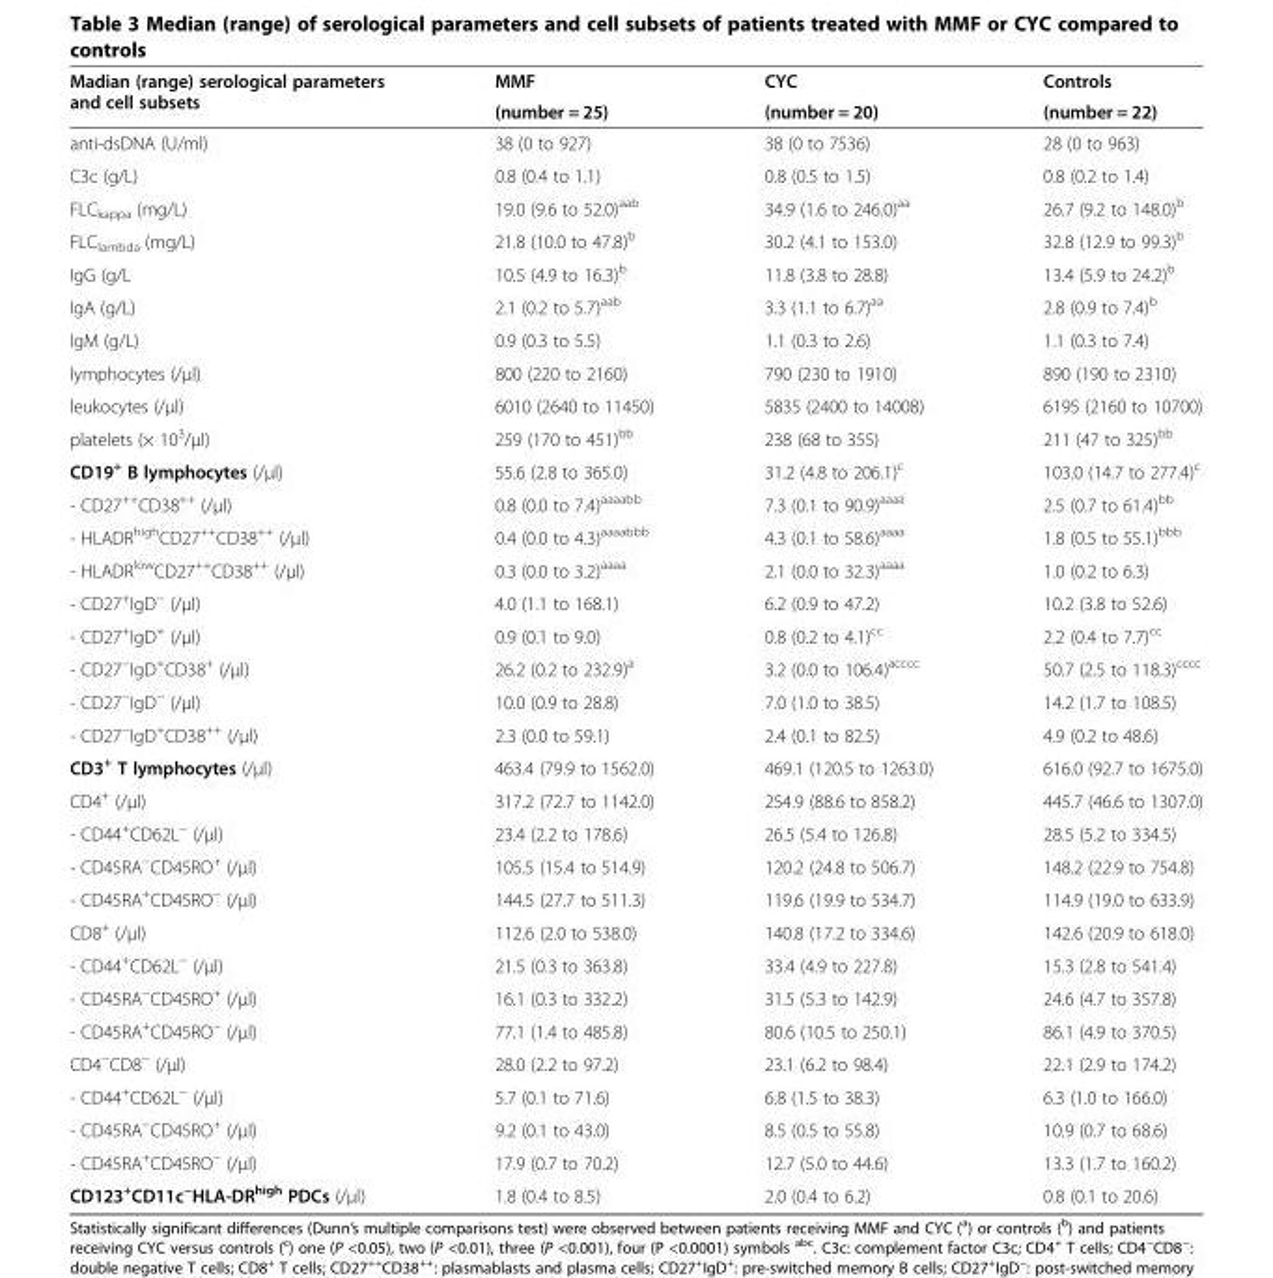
<table><thead><tr><td rowspan="2">Madian (range) serological parameters and cell subsets</td><td rowspan="2">MMF (number = 25)</td><td rowspan="2">CYC (number = 20)</td><td rowspan="2">Controls (number = 22)</td></tr><tr></tr></thead><tbody><tr><td>anti-dsDNA (U/ml)</td><td>38 (0 to 927)</td><td>38 (0 to 7536)</td><td>28 (0 to 963)</td></tr><tr><td>C3c (g/L)</td><td>0.8 (0.4 to 1.1)</td><td>0.8 (0.5 to 1.5)</td><td>0.8 (0.2 to 1.4)</td></tr><tr><td>FLC<sub>kappa</sub> (mg/L)</td><td>19.0 (9.6 to 52.0)<sup>aab</sup></td><td>34.9 (1.6 to 246.0)<sup>aa</sup></td><td>26.7 (9.2 to 148.0)<sup>b</sup></td></tr><tr><td>FLC<sub>lambda</sub> (mg/L)</td><td>21.8 (10.0 to 47.8)<sup>b</sup></td><td>30.2 (4.1 to 153.0)</td><td>32.8 (12.9 to 99.3)<sup>b</sup></td></tr><tr><td>IgG (g/L</td><td>10.5 (4.9 to 16.3)<sup>b</sup></td><td>11.8 (3.8 to 28.8)</td><td>13.4 (5.9 to 24.2)<sup>b</sup></td></tr><tr><td>IgA (g/L)</td><td>2.1 (0.2 to 5.7)<sup>aab</sup></td><td>3.3 (1.1 to 6.7)<sup>aa</sup></td><td>2.8 (0.9 to 7.4)<sup>b</sup></td></tr><tr><td>IgM (g/L)</td><td>0.9 (0.3 to 5.5)</td><td>1.1 (0.3 to 2.6)</td><td>1.1 (0.3 to 7.4)</td></tr><tr><td>lymphocytes (/μl)</td><td>800 (220 to 2160)</td><td>790 (230 to 1910)</td><td>890 (190 to 2310)</td></tr><tr><td>leukocytes (/μl)</td><td>6010 (2640 to 11450)</td><td>5835 (2400 to 14008)</td><td>6195 (2160 to 10700)</td></tr><tr><td>platelets (× 10<sup>3</sup>/μl)</td><td>259 (170 to 451)<sup>bb</sup></td><td>238 (68 to 355)</td><td>211 (47 to 325)<sup>bb</sup></td></tr><tr><td>CD19<sup>+</sup> B lymphocytes (/μl)</td><td>55.6 (2.8 to 365.0)</td><td>31.2 (4.8 to 206.1)<sup>c</sup></td><td>103.0 (14.7 to 277.4)<sup>c</sup></td></tr><tr><td>- CD27<sup>++</sup>CD38<sup>++</sup> (/μl)</td><td>0.8 (0.0 to 7.4)<sup>aaaabb</sup></td><td>7.3 (0.1 to 90.9)<sup>aaaa</sup></td><td>2.5 (0.7 to 61.4)<sup>bb</sup></td></tr><tr><td>- HLADR<sup>high</sup>CD27<sup>++</sup>CD38<sup>++</sup> (/μl)</td><td>0.4 (0.0 to 4.3)<sup>aaaabbb</sup></td><td>4.3 (0.1 to 58.6)<sup>aaaa</sup></td><td>1.8 (0.5 to 55.1)<sup>bbb</sup></td></tr><tr><td>- HLADR<sup>low</sup>CD27<sup>++</sup>CD38<sup>++</sup> (/μl)</td><td>0.3 (0.0 to 3.2)<sup>aaaa</sup></td><td>2.1 (0.0 to 32.3)<sup>aaaa</sup></td><td>1.0 (0.2 to 6.3)</td></tr><tr><td>- CD27<sup>+</sup>IgD<sup>−</sup> (/μl)</td><td>4.0 (1.1 to 168.1)</td><td>6.2 (0.9 to 47.2)</td><td>10.2 (3.8 to 52.6)</td></tr><tr><td>- CD27<sup>+</sup>IgD<sup>+</sup> (/μl)</td><td>0.9 (0.1 to 9.0)</td><td>0.8 (0.2 to 4.1)<sup>cc</sup></td><td>2.2 (0.4 to 7.7)<sup>cc</sup></td></tr><tr><td>- CD27<sup>−</sup>IgD<sup>+</sup>CD38<sup>+</sup> (/μl)</td><td>26.2 (0.2 to 232.9)<sup>a</sup></td><td>3.2 (0.0 to 106.4)<sup>acccc</sup></td><td>50.7 (2.5 to 118.3)<sup>cccc</sup></td></tr><tr><td>- CD27<sup>−</sup>IgD<sup>−</sup> (/μl)</td><td>10.0 (0.9 to 28.8)</td><td>7.0 (1.0 to 38.5)</td><td>14.2 (1.7 to 108.5)</td></tr><tr><td>- CD27<sup>−</sup>IgD<sup>+</sup>CD38<sup>++</sup> (/μl)</td><td>2.3 (0.0 to 59.1)</td><td>2.4 (0.1 to 82.5)</td><td>4.9 (0.2 to 48.6)</td></tr><tr><td>CD3<sup>+</sup> T lymphocytes (/μl)</td><td>463.4 (79.9 to 1562.0)</td><td>469.1 (120.5 to 1263.0)</td><td>616.0 (92.7 to 1675.0)</td></tr><tr><td>CD4<sup>+</sup> (/μl)</td><td>317.2 (72.7 to 1142.0)</td><td>254.9 (88.6 to 858.2)</td><td>445.7 (46.6 to 1307.0)</td></tr><tr><td>- CD44<sup>+</sup>CD62L<sup>−</sup> (/μl)</td><td>23.4 (2.2 to 178.6)</td><td>26.5 (5.4 to 126.8)</td><td>28.5 (5.2 to 334.5)</td></tr><tr><td>- CD45RA<sup>−</sup>CD45RO<sup>+</sup> (/μl)</td><td>105.5 (15.4 to 514.9)</td><td>120.2 (24.8 to 506.7)</td><td>148.2 (22.9 to 754.8)</td></tr><tr><td>- CD45RA<sup>+</sup>CD45RO<sup>−</sup> (/μl)</td><td>144.5 (27.7 to 511.3)</td><td>119.6 (19.9 to 534.7)</td><td>114.9 (19.0 to 633.9)</td></tr><tr><td>CD8<sup>+</sup> (/μl)</td><td>112.6 (2.0 to 538.0)</td><td>140.8 (17.2 to 334.6)</td><td>142.6 (20.9 to 618.0)</td></tr><tr><td>- CD44<sup>+</sup>CD62L<sup>−</sup> (/μl)</td><td>21.5 (0.3 to 363.8)</td><td>33.4 (4.9 to 227.8)</td><td>15.3 (2.8 to 541.4)</td></tr><tr><td>- CD45RA<sup>−</sup>CD45RO<sup>+</sup> (/μl)</td><td>16.1 (0.3 to 332.2)</td><td>31.5 (5.3 to 142.9)</td><td>24.6 (4.7 to 357.8)</td></tr><tr><td>- CD45RA<sup>+</sup>CD45RO<sup>−</sup> (/μl)</td><td>77.1 (1.4 to 485.8)</td><td>80.6 (10.5 to 250.1)</td><td>86.1 (4.9 to 370.5)</td></tr><tr><td>CD4<sup>−</sup>CD8<sup>−</sup> (/μl)</td><td>28.0 (2.2 to 97.2)</td><td>23.1 (6.2 to 98.4)</td><td>22.1 (2.9 to 174.2)</td></tr><tr><td>- CD44<sup>+</sup>CD62L<sup>−</sup> (/μl)</td><td>5.7 (0.1 to 71.6)</td><td>6.8 (1.5 to 38.3)</td><td>6.3 (1.0 to 166.0)</td></tr><tr><td>- CD45RA<sup>−</sup>CD45RO<sup>+</sup> (/μl)</td><td>9.2 (0.1 to 43.0)</td><td>8.5 (0.5 to 55.8)</td><td>10.9 (0.7 to 68.6)</td></tr><tr><td>- CD45RA<sup>+</sup>CD45RO<sup>−</sup> (/μl)</td><td>17.9 (0.7 to 70.2)</td><td>12.7 (5.0 to 44.6)</td><td>13.3 (1.7 to 160.2)</td></tr><tr><td>CD123<sup>+</sup>CD11c<sup>−</sup>HLA-DR<sup>high</sup> PDCs (/μl)</td><td>1.8 (0.4 to 8.5)</td><td>2.0 (0.4 to 6.2)</td><td>0.8 (0.1 to 20.6)</td></tr></tbody></table>